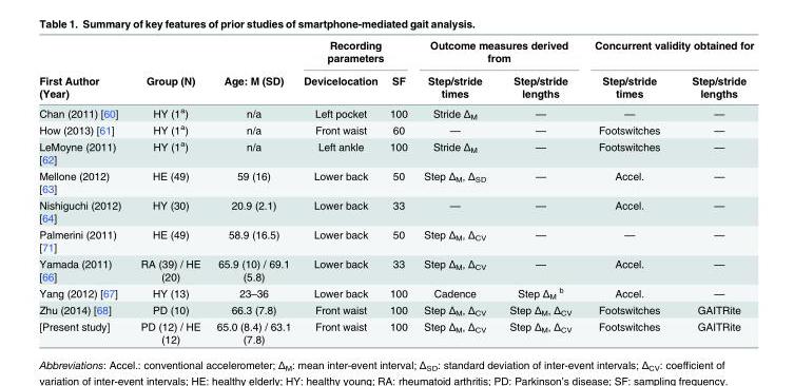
<table><thead><tr><td rowspan="2">First Author (Year)</td><td rowspan="2">Group (N)</td><td rowspan="2">Age: M (SD)</td><td colspan="2">Recording parameters</td><td colspan="2">Outcome measures derived from</td><td colspan="2">Concurrent validity obtained for</td></tr><tr><td>Devicelocation</td><td>SF</td><td>Step/stride times</td><td>Step/stride lengths</td><td>Step/stride times</td><td>Step/stride lengths</td></tr></thead><tbody><tr><td>Chan (2011) [60]</td><td>HY (1<sup>a</sup>)</td><td>n/a</td><td>Left pocket</td><td>100</td><td>Stride Δ<sub>M</sub></td><td>—</td><td>—</td><td>—</td></tr><tr><td>How (2013) [61]</td><td>HY (1<sup>a</sup>)</td><td>n/a</td><td>Front waist</td><td>60</td><td>—</td><td>—</td><td>Footswitches</td><td>—</td></tr><tr><td>LeMoyne (2011) [62]</td><td>HY (1<sup>a</sup>)</td><td>n/a</td><td>Left ankle</td><td>100</td><td>Stride Δ<sub>M</sub></td><td>—</td><td>Footswitches</td><td>—</td></tr><tr><td>Mellone (2012) [63]</td><td>HE (49)</td><td>59 (16)</td><td>Lower back</td><td>50</td><td>Step Δ<sub>M</sub>, Δ<sub>SD</sub></td><td>—</td><td>Accel.</td><td>—</td></tr><tr><td>Nishiguchi (2012) [64]</td><td>HY (30)</td><td>20.9 (2.1)</td><td>Lower back</td><td>33</td><td>—</td><td>—</td><td>Accel.</td><td>—</td></tr><tr><td>Palmerini (2011) [71]</td><td>HE (49)</td><td>58.9 (16.5)</td><td>Lower back</td><td>50</td><td>Step Δ<sub>M</sub>, Δ<sub>CV</sub></td><td>—</td><td>—</td><td>—</td></tr><tr><td>Yamada (2011) [66]</td><td>RA (39) / HE (20)</td><td>65.9 (10) / 69.1 (5.8)</td><td>Lower back</td><td>33</td><td>Step Δ<sub>M</sub>, Δ<sub>CV</sub></td><td>—</td><td>Accel.</td><td>—</td></tr><tr><td>Yang (2012) [67]</td><td>HY (13)</td><td>23–36</td><td>Lower back</td><td>100</td><td>Cadence</td><td>Step Δ<sub>M</sub> <sup>b</sup></td><td>Accel.</td><td>—</td></tr><tr><td>Zhu (2014) [68]</td><td>PD (10)</td><td>66.3 (7.8)</td><td>Front waist</td><td>100</td><td>Step Δ<sub>M</sub>, Δ<sub>CV</sub></td><td>Step Δ<sub>M</sub>, Δ<sub>CV</sub></td><td>Footswitches</td><td>GAITRite</td></tr><tr><td>[Present study]</td><td>PD (12) / HE (12)</td><td>65.0 (8.4) / 63.1 (7.8)</td><td>Front waist</td><td>100</td><td>Step Δ<sub>M</sub>, Δ<sub>CV</sub></td><td>Step Δ<sub>M</sub>, Δ<sub>CV</sub></td><td>Footswitches</td><td>GAITRite</td></tr></tbody></table>